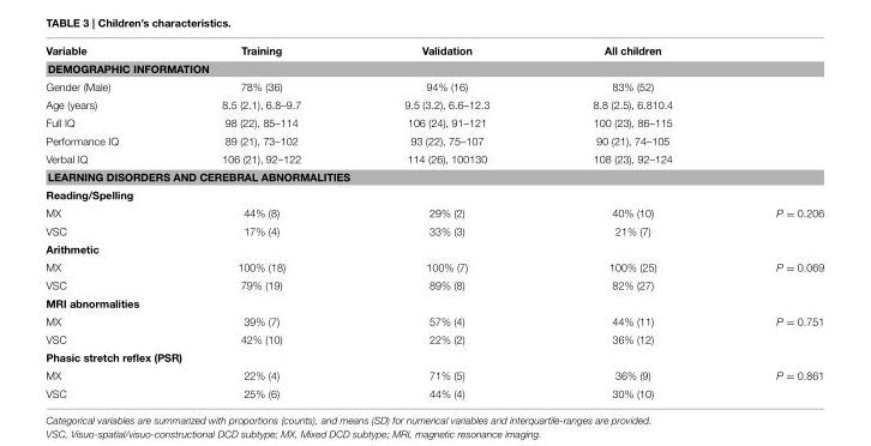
<table><thead><tr><td>Variable</td><td>Training</td><td>Validation</td><td>All children</td><td></td></tr></thead><tbody><tr><td colspan="5">DEMOGRAPHIC INFORMATION</td></tr><tr><td>Gender (Male)</td><td>78% (36)</td><td>94% (16)</td><td>83% (52)</td><td></td></tr><tr><td>Age (years)</td><td>8.5 (2.1), 6.8–9.7</td><td>9.5 (3.2), 6.6–12.3</td><td>8.8 (2.5), 6.810.4</td><td></td></tr><tr><td>Full IQ</td><td>98 (22), 85–114</td><td>106 (24), 91–121</td><td>100 (23), 86–115</td><td></td></tr><tr><td>Performance IQ</td><td>89 (21), 73–102</td><td>93 (22), 75–107</td><td>90 (21), 74–105</td><td></td></tr><tr><td>Verbal IQ</td><td>106 (21), 92–122</td><td>114 (26), 100130</td><td>108 (23), 92–124</td><td></td></tr><tr><td colspan="5">LEARNING DISORDERS AND CEREBRAL ABNORMALITIES</td></tr><tr><td colspan="5">Reading/Spelling</td></tr><tr><td>MX</td><td>44% (8)</td><td>29% (2)</td><td>40% (10)</td><td>P = 0.206</td></tr><tr><td>VSC</td><td>17% (4)</td><td>33% (3)</td><td>21% (7)</td><td></td></tr><tr><td colspan="5">Arithmetic</td></tr><tr><td>MX</td><td>100% (18)</td><td>100% (7)</td><td>100% (25)</td><td>P = 0.069</td></tr><tr><td>VSC</td><td>79% (19)</td><td>89% (8)</td><td>82% (27)</td><td></td></tr><tr><td colspan="5">MRI abnormalities</td></tr><tr><td>MX</td><td>39% (7)</td><td>57% (4)</td><td>44% (11)</td><td>P = 0.751</td></tr><tr><td>VSC</td><td>42% (10)</td><td>22% (2)</td><td>36% (12)</td><td></td></tr><tr><td colspan="5">Phasic stretch reflex (PSR)</td></tr><tr><td>MX</td><td>22% (4)</td><td>71% (5)</td><td>36% (9)</td><td>P = 0.861</td></tr><tr><td>VSC</td><td>25% (6)</td><td>44% (4)</td><td>30% (10)</td><td></td></tr></tbody></table>